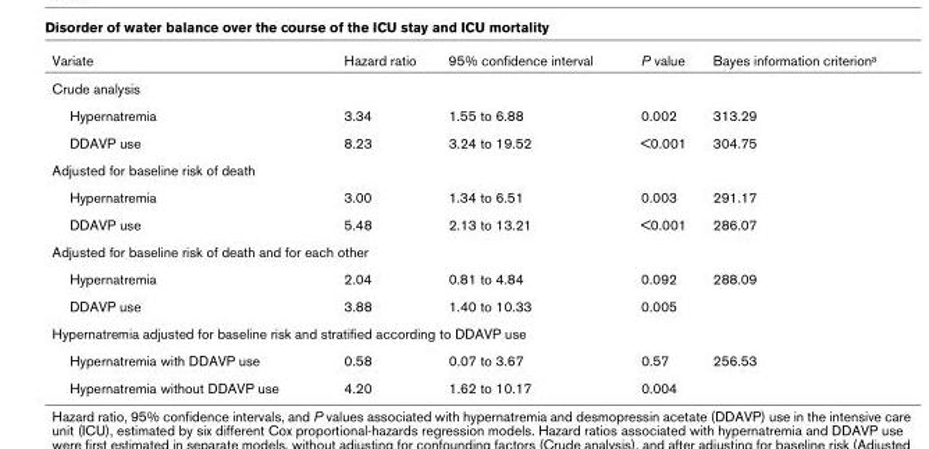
<table><thead><tr><td>Variate</td><td>Hazard ratio</td><td>95% confidence interval</td><td>P value</td><td>Bayes information criterion<sup>a</sup></td></tr></thead><tbody><tr><td colspan="5">Crude analysis</td></tr><tr><td>Hypernatremia</td><td>3.34</td><td>1.55 to 6.88</td><td>0.002</td><td>313.29</td></tr><tr><td>DDAVP use</td><td>8.23</td><td>3.24 to 19.52</td><td>&lt;0.001</td><td>304.75</td></tr><tr><td colspan="5">Adjusted for baseline risk of death</td></tr><tr><td>Hypernatremia</td><td>3.00</td><td>1.34 to 6.51</td><td>0.003</td><td>291.17</td></tr><tr><td>DDAVP use</td><td>5.48</td><td>2.13 to 13.21</td><td>&lt;0.001</td><td>286.07</td></tr><tr><td colspan="5">Adjusted for baseline risk of death and for each other</td></tr><tr><td>Hypernatremia</td><td>2.04</td><td>0.81 to 4.84</td><td>0.092</td><td>288.09</td></tr><tr><td>DDAVP use</td><td>3.88</td><td>1.40 to 10.33</td><td>0.005</td><td></td></tr><tr><td colspan="5">Hypernatremia adjusted for baseline risk and stratified according to DDAVP use</td></tr><tr><td>Hypernatremia with DDAVP use</td><td>0.58</td><td>0.07 to 3.67</td><td>0.57</td><td>256.53</td></tr><tr><td>Hypernatremia without DDAVP use</td><td>4.20</td><td>1.62 to 10.17</td><td>0.004</td><td></td></tr></tbody></table>